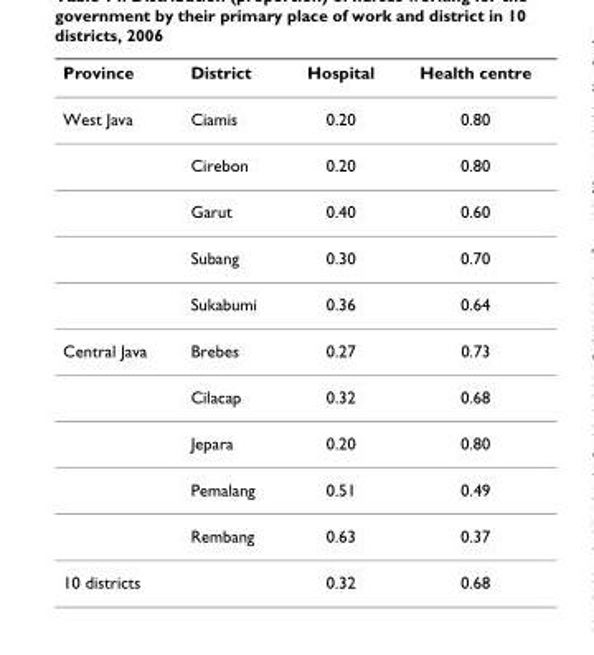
<table><thead><tr><td>Province</td><td>District</td><td>Hospital</td><td>Health centre</td></tr></thead><tbody><tr><td rowspan="5">West Java</td><td>Ciamis</td><td>0.20</td><td>0.80</td></tr><tr><td>Cirebon</td><td>0.20</td><td>0.80</td></tr><tr><td>Garut</td><td>0.40</td><td>0.60</td></tr><tr><td>Subang</td><td>0.30</td><td>0.70</td></tr><tr><td>Sukabumi</td><td>0.36</td><td>0.64</td></tr><tr><td rowspan="5">Central Java</td><td>Brebes</td><td>0.27</td><td>0.73</td></tr><tr><td>Cilacap</td><td>0.32</td><td>0.68</td></tr><tr><td>Jepara</td><td>0.20</td><td>0.80</td></tr><tr><td>Pemalang</td><td>0.51</td><td>0.49</td></tr><tr><td>Rembang</td><td>0.63</td><td>0.37</td></tr><tr><td>10 districts</td><td></td><td>0.32</td><td>0.68</td></tr></tbody></table>